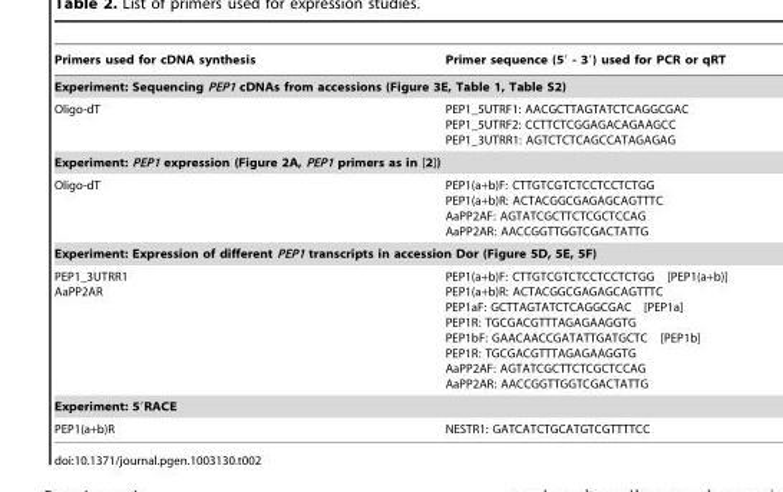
<table><thead><tr><td>Primers used for cDNA synthesis</td><td>Primer sequence (5′ - 3′) used for PCR or qRT</td></tr></thead><tbody><tr><td colspan="2">Experiment: Sequencing PEP1 cDNAs from accessions (Figure 3E, Table 1, Table S2)</td></tr><tr><td>Oligo-dT</td><td>PEP1_5UTRF1: AACGCTTAGTATCTCAGGCGAC PEP1_5UTRF2: CCTTCTCGGAGACAGAAGCC PEP1_3UTRR1: AGTCTCTCAGCCATAGAGAG</td></tr><tr><td colspan="2">Experiment: PEP1 expression (Figure 2A, PEP1 primers as in [2])</td></tr><tr><td>Oligo-dT</td><td>PEP1(a+b)F: CTTGTCGTCTCCTCCTCTGG PEP1(a+b)R: ACTACGGCGAGAGCAGTTTC AaPP2AF: AGTATCGCTTCTCGCTCCAG AaPP2AR: AACCGGTTGGTCGACTATTG</td></tr><tr><td colspan="2">Experiment: Expression of different PEP1 transcripts in accession Dor (Figure 5D, 5E, 5F)</td></tr><tr><td>PEP1_3UTRR1 AaPP2AR</td><td>PEP1(a+b)F: CTTGTCGTCTCCTCCTCTGG [PEP1(a+b)] PEP1(a+b)R: ACTACGGCGAGAGCAGTTTC PEP1aF: GCTTAGTATCTCAGGCGAC [PEP1a] PEP1R: TGCGACGTTTAGAGAAGGTG PEP1bF: GAACAACCGATATTGATGCTC [PEP1b] PEP1R: TGCGACGTTTAGAGAAGGTG AaPP2AF: AGTATCGCTTCTCGCTCCAG AaPP2AR: AACCGGTTGGTCGACTATTG</td></tr><tr><td colspan="2">Experiment: 5′RACE</td></tr><tr><td>PEP1(a+b)R</td><td>NESTR1: GATCATCTGCATGTCGTTTTCC</td></tr></tbody></table>